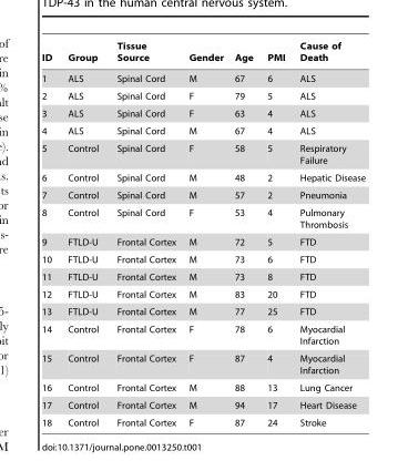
<table><thead><tr><td>ID</td><td>Group</td><td>Tissue Source</td><td>Gender</td><td>Age</td><td>PMI</td><td>Cause of Death</td></tr></thead><tbody><tr><td>1</td><td>ALS</td><td>Spinal Cord</td><td>M</td><td>67</td><td>6</td><td>ALS</td></tr><tr><td>2</td><td>ALS</td><td>Spinal Cord</td><td>F</td><td>79</td><td>5</td><td>ALS</td></tr><tr><td>3</td><td>ALS</td><td>Spinal Cord</td><td>F</td><td>63</td><td>4</td><td>ALS</td></tr><tr><td>4</td><td>ALS</td><td>Spinal Cord</td><td>M</td><td>67</td><td>4</td><td>ALS</td></tr><tr><td>5</td><td>Control</td><td>Spinal Cord</td><td>F</td><td>58</td><td>5</td><td>Respiratory Failure</td></tr><tr><td>6</td><td>Control</td><td>Spinal Cord</td><td>M</td><td>48</td><td>2</td><td>Hepatic Disease</td></tr><tr><td>7</td><td>Control</td><td>Spinal Cord</td><td>M</td><td>57</td><td>2</td><td>Pneumonia</td></tr><tr><td>8</td><td>Control</td><td>Spinal Cord</td><td>F</td><td>53</td><td>4</td><td>Pulmonary Thrombosis</td></tr><tr><td>9</td><td>FTLD-U</td><td>Frontal Cortex</td><td>M</td><td>72</td><td>5</td><td>FTD</td></tr><tr><td>10</td><td>FTLD-U</td><td>Frontal Cortex</td><td>M</td><td>73</td><td>6</td><td>FTD</td></tr><tr><td>11</td><td>FTLD-U</td><td>Frontal Cortex</td><td>M</td><td>73</td><td>8</td><td>FTD</td></tr><tr><td>12</td><td>FTLD-U</td><td>Frontal Cortex</td><td>M</td><td>83</td><td>20</td><td>FTD</td></tr><tr><td>13</td><td>FTLD-U</td><td>Frontal Cortex</td><td>M</td><td>77</td><td>25</td><td>FTD</td></tr><tr><td>14</td><td>Control</td><td>Frontal Cortex</td><td>F</td><td>78</td><td>6</td><td>Myocardial Infarction</td></tr><tr><td>15</td><td>Control</td><td>Frontal Cortex</td><td>F</td><td>87</td><td>4</td><td>Myocardial Infarction</td></tr><tr><td>16</td><td>Control</td><td>Frontal Cortex</td><td>M</td><td>88</td><td>13</td><td>Lung Cancer</td></tr><tr><td>17</td><td>Control</td><td>Frontal Cortex</td><td>M</td><td>94</td><td>17</td><td>Heart Disease</td></tr><tr><td>18</td><td>Control</td><td>Frontal Cortex</td><td>F</td><td>87</td><td>24</td><td>Stroke</td></tr></tbody></table>